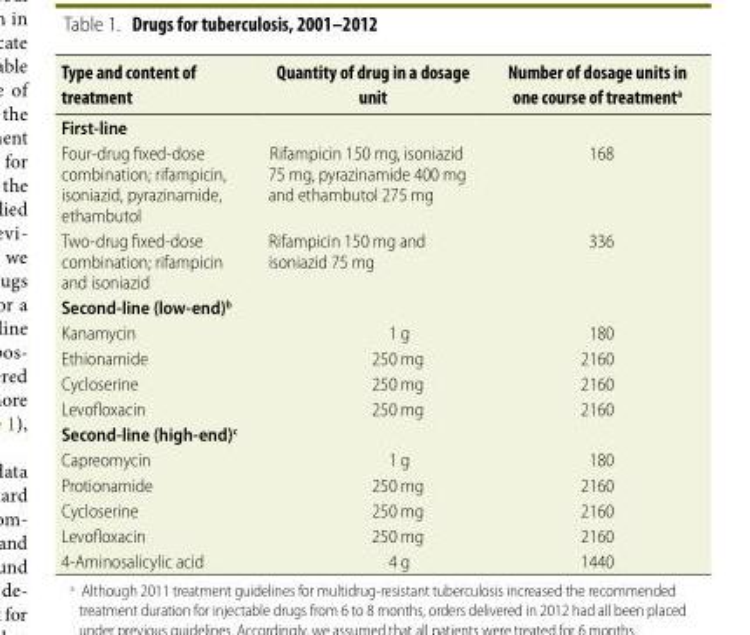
<table><thead><tr><td>Type and content of treatment</td><td>Quantity of drug in a dosage unit</td><td>Number of dosage units in one course of treatment<sup>a</sup></td></tr></thead><tbody><tr><td colspan="3">First-line</td></tr><tr><td>Four-drug fixed-dose combination; rifampicin, isoniazid, pyrazinamide, ethambutol</td><td>Rifampicin 150 mg, isoniazid 75 mg, pyrazinamide 400 mg and ethambutol 275 mg</td><td>168</td></tr><tr><td>Two-drug fixed-dose combination; rifampicin and isoniazid</td><td>Rifampicin 150 mg and isoniazid 75 mg</td><td>336</td></tr><tr><td colspan="3">Second-line (low-end)<sup>b</sup></td></tr><tr><td>Kanamycin</td><td>1 g</td><td>180</td></tr><tr><td>Ethionamide</td><td>250 mg</td><td>2160</td></tr><tr><td>Cycloserine</td><td>250 mg</td><td>2160</td></tr><tr><td>Levofloxacin</td><td>250 mg</td><td>2160</td></tr><tr><td colspan="3">Second-line (high-end)<sup>c</sup></td></tr><tr><td>Capreomycin</td><td>1 g</td><td>180</td></tr><tr><td>Protionamide</td><td>250 mg</td><td>2160</td></tr><tr><td>Cycloserine</td><td>250 mg</td><td>2160</td></tr><tr><td>Levofloxacin</td><td>250 mg</td><td>2160</td></tr><tr><td>4-Aminosalicylic acid</td><td>4 g</td><td>1440</td></tr></tbody></table>